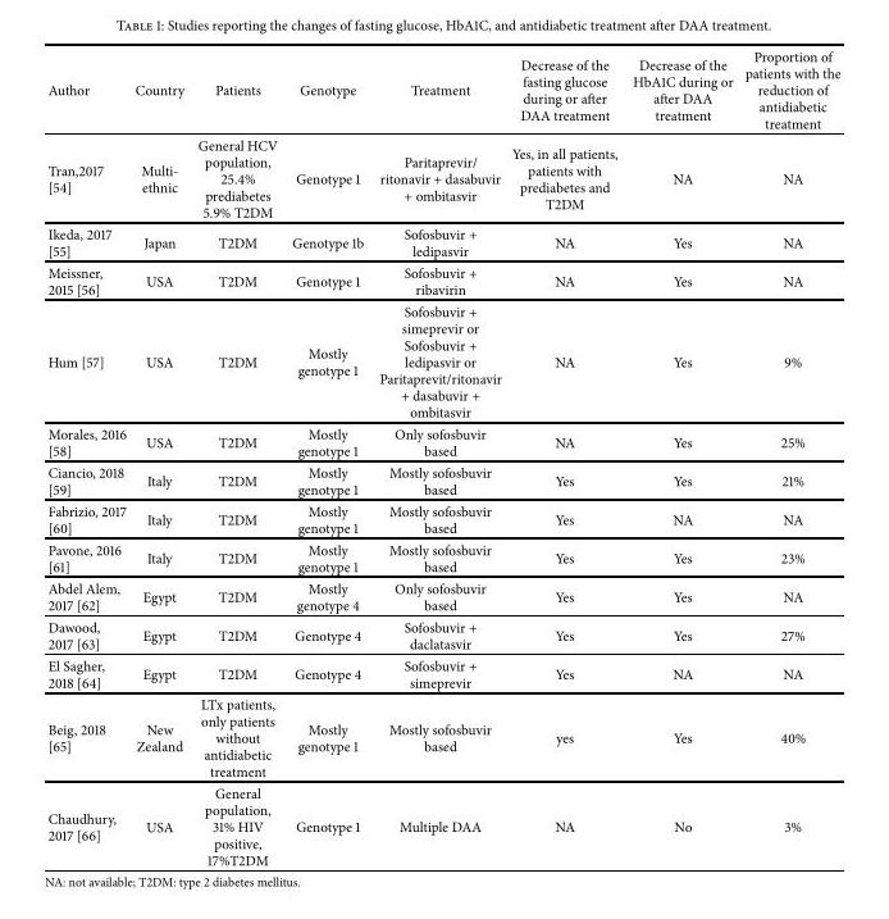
<table><thead><tr><td>Author</td><td>Country</td><td>Patients</td><td>Genotype</td><td>Treatment</td><td>Decrease of the fasting glucose during or after DAA treatment</td><td>Decrease of the HbA1C during or after DAA treatment</td><td>Proportion of patients with the reduction of antidiabetic treatment</td></tr></thead><tbody><tr><td>Tran,2017 [54]</td><td>Multi- ethnic</td><td>General HCV population, 25.4% prediabetes 5.9% T2DM</td><td>Genotype 1</td><td>Paritaprevir/ ritonavir + dasabuvir + ombitasvir</td><td>Yes, in all patients, patients with prediabetes and T2DM</td><td>NA</td><td>NA</td></tr><tr><td>Ikeda, 2017 [55]</td><td>Japan</td><td>T2DM</td><td>Genotype 1b</td><td>Sofosbuvir + ledipasvir</td><td>NA</td><td>Yes</td><td>NA</td></tr><tr><td>Meissner, 2015 [56]</td><td>USA</td><td>T2DM</td><td>Genotype 1</td><td>Sofosbuvir + ribavirin</td><td>NA</td><td>Yes</td><td>NA</td></tr><tr><td>Hum [57]</td><td>USA</td><td>T2DM</td><td>Mostly genotype 1</td><td>Sofosbuvir + simeprevir or Sofosbuvir + ledipasvir or Paritaprevit/ritonavir + dasabuvir + ombitasvir</td><td>NA</td><td>Yes</td><td>9%</td></tr><tr><td>Morales, 2016 [58]</td><td>USA</td><td>T2DM</td><td>Mostly genotype 1</td><td>Only sofosbuvir based</td><td>NA</td><td>Yes</td><td>25%</td></tr><tr><td>Ciancio, 2018 [59]</td><td>Italy</td><td>T2DM</td><td>Mostly genotype 1</td><td>Mostly sofosbuvir based</td><td>Yes</td><td>Yes</td><td>21%</td></tr><tr><td>Fabrizio, 2017 [60]</td><td>Italy</td><td>T2DM</td><td>Mostly genotype 1</td><td>Mostly sofosbuvir based</td><td>Yes</td><td>NA</td><td>NA</td></tr><tr><td>Pavone, 2016 [61]</td><td>Italy</td><td>T2DM</td><td>Mostly genotype 1</td><td>Mostly sofosbuvir based</td><td>Yes</td><td>Yes</td><td>23%</td></tr><tr><td>Abdel Alem, 2017 [62]</td><td>Egypt</td><td>T2DM</td><td>Mostly genotype 4</td><td>Only sofosbuvir based</td><td>Yes</td><td>Yes</td><td>NA</td></tr><tr><td>Dawood, 2017 [63]</td><td>Egypt</td><td>T2DM</td><td>Genotype 4</td><td>Sofosbuvir + daclatasvir</td><td>Yes</td><td>Yes</td><td>27%</td></tr><tr><td>El Sagher, 2018 [64]</td><td>Egypt</td><td>T2DM</td><td>Genotype 4</td><td>Sofosbuvir + simeprevir</td><td>Yes</td><td>NA</td><td>NA</td></tr><tr><td>Beig, 2018 [65]</td><td>New Zealand</td><td>LTx patients, only patients without antidiabetic treatment</td><td>Mostly genotype 1</td><td>Mostly sofosbuvir based</td><td>yes</td><td>Yes</td><td>40%</td></tr><tr><td>Chaudhury, 2017 [66]</td><td>USA</td><td>General population, 31% HIV positive, 17%T2DM</td><td>Genotype 1</td><td>Multiple DAA</td><td>NA</td><td>No</td><td>3%</td></tr></tbody></table>